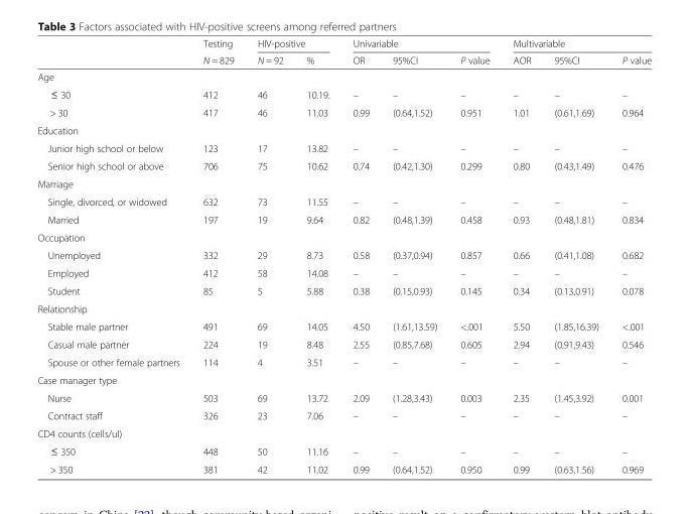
<table><thead><tr><td rowspan="2"></td><td rowspan="2">Testing N = 829</td><td colspan="2">HIV-positive</td><td colspan="3">Univariable</td><td colspan="3">Multivariable</td></tr><tr><td>N = 92</td><td>%</td><td>OR</td><td>95%CI</td><td>P value</td><td>AOR</td><td>95%CI</td><td>P value</td></tr></thead><tbody><tr><td colspan="10">Age</td></tr><tr><td>≤ 30</td><td>412</td><td>46</td><td>10.19.</td><td>–</td><td>–</td><td>–</td><td>–</td><td>–</td><td>–</td></tr><tr><td>&gt; 30</td><td>417</td><td>46</td><td>11.03</td><td>0.99</td><td>(0.64,1.52)</td><td>0.951</td><td>1.01</td><td>(0.61,1.69)</td><td>0.964</td></tr><tr><td colspan="10">Education</td></tr><tr><td>Junior high school or below</td><td>123</td><td>17</td><td>13.82</td><td>–</td><td>–</td><td>–</td><td>–</td><td>–</td><td>–</td></tr><tr><td>Senior high school or above</td><td>706</td><td>75</td><td>10.62</td><td>0.74</td><td>(0.42,1.30)</td><td>0.299</td><td>0.80</td><td>(0.43,1.49)</td><td>0.476</td></tr><tr><td colspan="10">Marriage</td></tr><tr><td>Single, divorced, or widowed</td><td>632</td><td>73</td><td>11.55</td><td>–</td><td>–</td><td>–</td><td>–</td><td>–</td><td>–</td></tr><tr><td>Married</td><td>197</td><td>19</td><td>9.64</td><td>0.82</td><td>(0.48,1.39)</td><td>0.458</td><td>0.93</td><td>(0.48,1.81)</td><td>0.834</td></tr><tr><td colspan="10">Occupation</td></tr><tr><td>Unemployed</td><td>332</td><td>29</td><td>8.73</td><td>0.58</td><td>(0.37,0.94)</td><td>0.857</td><td>0.66</td><td>(0.41,1.08)</td><td>0.682</td></tr><tr><td>Employed</td><td>412</td><td>58</td><td>14.08</td><td>–</td><td>–</td><td>–</td><td>–</td><td>–</td><td>–</td></tr><tr><td>Student</td><td>85</td><td>5</td><td>5.88</td><td>0.38</td><td>(0.15,0.93)</td><td>0.145</td><td>0.34</td><td>(0.13,0.91)</td><td>0.078</td></tr><tr><td colspan="10">Relationship</td></tr><tr><td>Stable male partner</td><td>491</td><td>69</td><td>14.05</td><td>4.50</td><td>(1.61,13.59)</td><td>&lt;.001</td><td>5.50</td><td>(1.85,16.39)</td><td>&lt;.001</td></tr><tr><td>Casual male partner</td><td>224</td><td>19</td><td>8.48</td><td>2.55</td><td>(0.85,7.68)</td><td>0.605</td><td>2.94</td><td>(0.91,9.43)</td><td>0.546</td></tr><tr><td>Spouse or other female partners</td><td>114</td><td>4</td><td>3.51</td><td>–</td><td>–</td><td>–</td><td>–</td><td>–</td><td>–</td></tr><tr><td colspan="10">Case manager type</td></tr><tr><td>Nurse</td><td>503</td><td>69</td><td>13.72</td><td>2.09</td><td>(1.28,3.43)</td><td>0.003</td><td>2.35</td><td>(1.45,3.92)</td><td>0.001</td></tr><tr><td>Contract staff</td><td>326</td><td>23</td><td>7.06</td><td>–</td><td>–</td><td>–</td><td>–</td><td>–</td><td>–</td></tr><tr><td colspan="10">CD4 counts (cells/ul)</td></tr><tr><td>≤ 350</td><td>448</td><td>50</td><td>11.16</td><td>–</td><td>–</td><td>–</td><td>–</td><td>–</td><td>–</td></tr><tr><td>&gt; 350</td><td>381</td><td>42</td><td>11.02</td><td>0.99</td><td>(0.64,1.52)</td><td>0.950</td><td>0.99</td><td>(0.63,1.56)</td><td>0.969</td></tr></tbody></table>